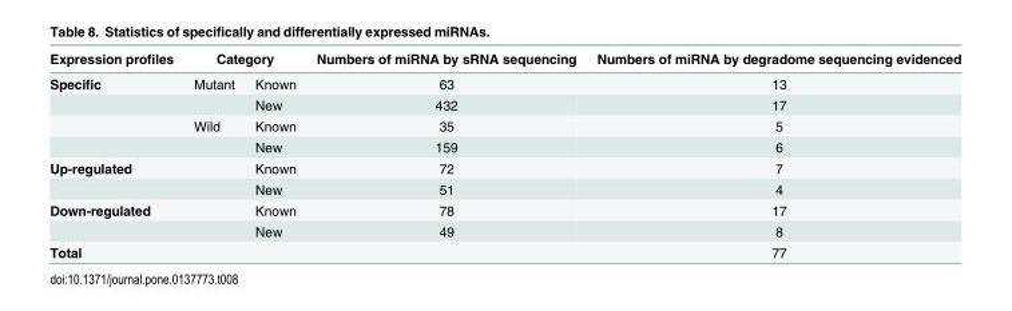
<table><thead><tr><td rowspan="2">Expression profiles Specific</td><td colspan="2">Category</td><td rowspan="2">Numbers of miRNA by sRNA sequencing 63</td><td rowspan="2">Numbers of miRNA by degradome sequencing evidenced 13</td></tr><tr><td>Mutant</td><td>Known</td></tr></thead><tbody><tr><td></td><td></td><td>New</td><td>432</td><td>17</td></tr><tr><td></td><td>Wild</td><td>Known</td><td>35</td><td>5</td></tr><tr><td></td><td></td><td>New</td><td>159</td><td>6</td></tr><tr><td rowspan="2">Up-regulated</td><td></td><td>Known</td><td>72</td><td>7</td></tr><tr><td></td><td>New</td><td>51</td><td>4</td></tr><tr><td rowspan="2">Down-regulated</td><td></td><td>Known</td><td>78</td><td>17</td></tr><tr><td></td><td>New</td><td>49</td><td>8</td></tr><tr><td>Total</td><td></td><td></td><td></td><td>77</td></tr></tbody></table>